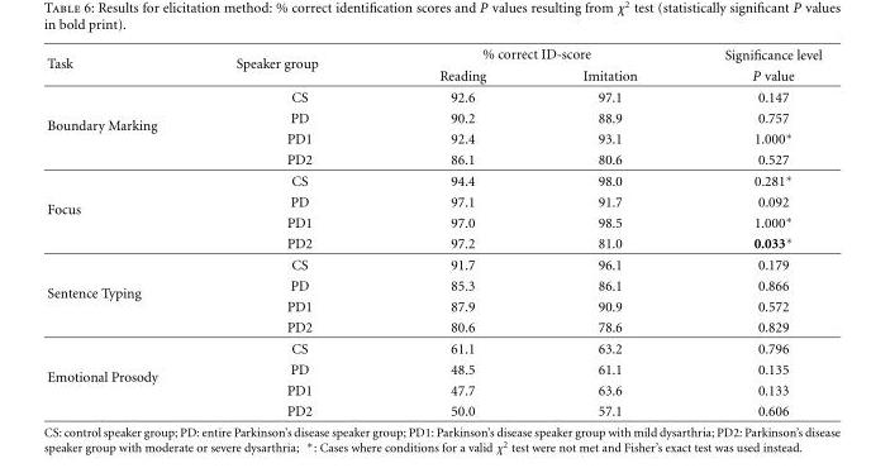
<table><thead><tr><td rowspan="2">Task</td><td rowspan="2">Speaker group</td><td colspan="2">% correct ID-score</td><td rowspan="2">Significance level P value</td></tr><tr><td>Reading</td><td>Imitation</td></tr></thead><tbody><tr><td rowspan="4">Boundary Marking</td><td>CS</td><td>92.6</td><td>97.1</td><td>0.147</td></tr><tr><td>PD</td><td>90.2</td><td>88.9</td><td>0.757</td></tr><tr><td>PD1</td><td>92.4</td><td>93.1</td><td>1.000∗</td></tr><tr><td>PD2</td><td>86.1</td><td>80.6</td><td>0.527</td></tr><tr><td rowspan="4">Focus</td><td>CS</td><td>94.4</td><td>98.0</td><td>0.281∗</td></tr><tr><td>PD</td><td>97.1</td><td>91.7</td><td>0.092</td></tr><tr><td>PD1</td><td>97.0</td><td>98.5</td><td>1.000∗</td></tr><tr><td>PD2</td><td>97.2</td><td>81.0</td><td>0.033∗</td></tr><tr><td rowspan="4">Sentence Typing</td><td>CS</td><td>91.7</td><td>96.1</td><td>0.179</td></tr><tr><td>PD</td><td>85.3</td><td>86.1</td><td>0.866</td></tr><tr><td>PD1</td><td>87.9</td><td>90.9</td><td>0.572</td></tr><tr><td>PD2</td><td>80.6</td><td>78.6</td><td>0.829</td></tr><tr><td rowspan="4">Emotional Prosody</td><td>CS</td><td>61.1</td><td>63.2</td><td>0.796</td></tr><tr><td>PD</td><td>48.5</td><td>61.1</td><td>0.135</td></tr><tr><td>PD1</td><td>47.7</td><td>63.6</td><td>0.133</td></tr><tr><td>PD2</td><td>50.0</td><td>57.1</td><td>0.606</td></tr></tbody></table>